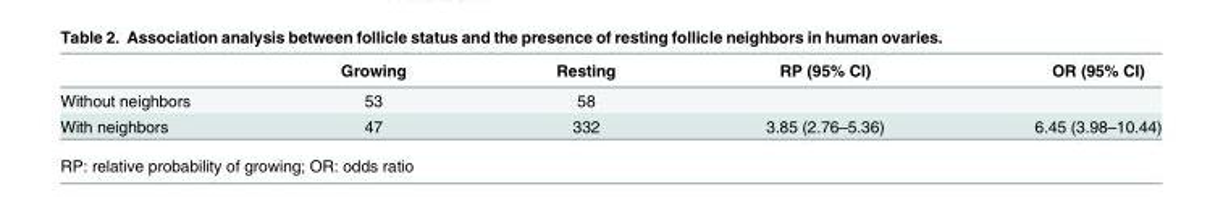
<table><thead><tr><td></td><td>Growing</td><td>Resting</td><td>RP (95% CI)</td><td>OR (95% CI)</td></tr></thead><tbody><tr><td>Without neighbors</td><td>53</td><td>58</td><td></td><td></td></tr><tr><td>With neighbors</td><td>47</td><td>332</td><td>3.85 (2.76–5.36)</td><td>6.45 (3.98–10.44)</td></tr></tbody></table>